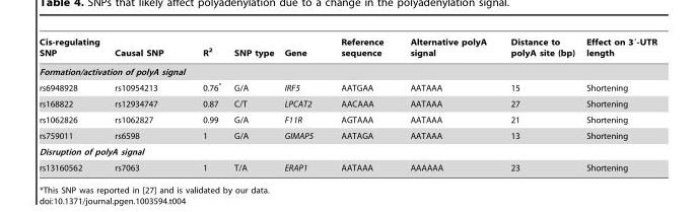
<table><thead><tr><td>Cis-regulating SNP</td><td>Causal SNP</td><td>R<sup>2</sup></td><td>SNP type</td><td>Gene</td><td>Reference sequence</td><td>Alternative polyA signal</td><td>Distance to polyA site (bp)</td><td>Effect on 3′-UTR length</td></tr></thead><tbody><tr><td colspan="9">Formation/activation of polyA signal</td></tr><tr><td>rs6948928</td><td>rs10954213</td><td>0.76*</td><td>G/A</td><td>IRF5</td><td>AATGAA</td><td>AATAAA</td><td>15</td><td>Shortening</td></tr><tr><td>rs168822</td><td>rs12934747</td><td>0.87</td><td>C/T</td><td>LPCAT2</td><td>AACAAA</td><td>AATAAA</td><td>27</td><td>Shortening</td></tr><tr><td>rs1062826</td><td>rs1062827</td><td>0.99</td><td>G/A</td><td>F11R</td><td>AGTAAA</td><td>AATAAA</td><td>21</td><td>Shortening</td></tr><tr><td>rs759011</td><td>rs6598</td><td>1</td><td>G/A</td><td>GIMAP5</td><td>AATAGA</td><td>AATAAA</td><td>13</td><td>Shortening</td></tr><tr><td colspan="9">Disruption of polyA signal</td></tr><tr><td>rs13160562</td><td>rs7063</td><td>1</td><td>T/A</td><td>ERAP1</td><td>AATAAA</td><td>AAAAAA</td><td>23</td><td>Shortening</td></tr></tbody></table>